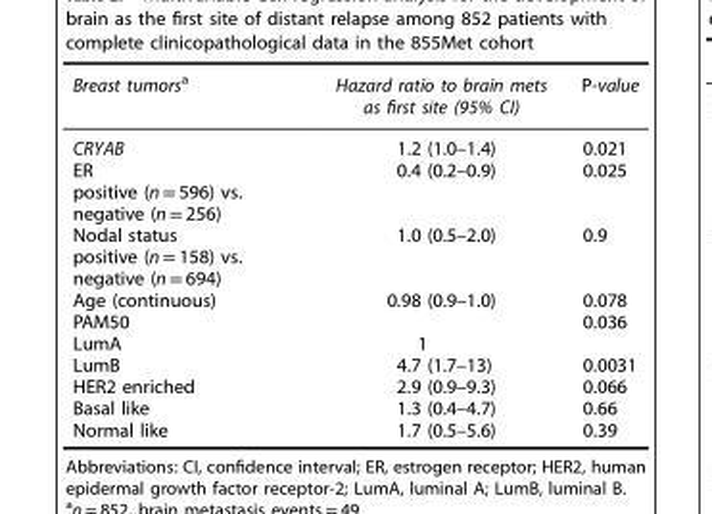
<table><thead><tr><td>Breast tumors<sup>a</sup></td><td>Hazard ratio to brain mets as first site (95% CI)</td><td>P-value</td></tr></thead><tbody><tr><td>CRYAB</td><td>1.2 (1.0–1.4)</td><td>0.021</td></tr><tr><td>ER positive (n = 596) vs. negative (n = 256)</td><td>0.4 (0.2–0.9)</td><td>0.025</td></tr><tr><td>Nodal status positive (n = 158) vs. negative (n = 694)</td><td>1.0 (0.5–2.0)</td><td>0.9</td></tr><tr><td>Age (continuous)</td><td>0.98 (0.9–1.0)</td><td>0.078</td></tr><tr><td>PAM50</td><td></td><td>0.036</td></tr><tr><td>LumA</td><td>1</td><td></td></tr><tr><td>LumB</td><td>4.7 (1.7–13)</td><td>0.0031</td></tr><tr><td>HER2 enriched</td><td>2.9 (0.9–9.3)</td><td>0.066</td></tr><tr><td>Basal like</td><td>1.3 (0.4–4.7)</td><td>0.66</td></tr><tr><td>Normal like</td><td>1.7 (0.5–5.6)</td><td>0.39</td></tr></tbody></table>